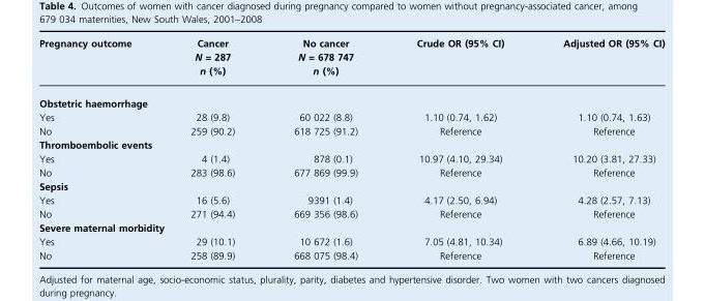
<table><thead><tr><td>Pregnancy outcome</td><td>Cancer N = 287 n (%)</td><td>No cancer N = 678 747 n (%)</td><td>Crude OR (95% CI)</td><td>Adjusted OR (95% CI)</td></tr></thead><tbody><tr><td colspan="5">Obstetric haemorrhage</td></tr><tr><td>Yes</td><td>28 (9.8)</td><td>60 022 (8.8)</td><td>1.10 (0.74, 1.62)</td><td>1.10 (0.74, 1.63)</td></tr><tr><td>No</td><td>259 (90.2)</td><td>618 725 (91.2)</td><td>Reference</td><td>Reference</td></tr><tr><td colspan="5">Thromboembolic events</td></tr><tr><td>Yes</td><td>4 (1.4)</td><td>878 (0.1)</td><td>10.97 (4.10, 29.34)</td><td>10.20 (3.81, 27.33)</td></tr><tr><td>No</td><td>283 (98.6)</td><td>677 869 (99.9)</td><td>Reference</td><td>Reference</td></tr><tr><td colspan="5">Sepsis</td></tr><tr><td>Yes</td><td>16 (5.6)</td><td>9391 (1.4)</td><td>4.17 (2.50, 6.94)</td><td>4.28 (2.57, 7.13)</td></tr><tr><td>No</td><td>271 (94.4)</td><td>669 356 (98.6)</td><td>Reference</td><td>Reference</td></tr><tr><td colspan="5">Severe maternal morbidity</td></tr><tr><td>Yes</td><td>29 (10.1)</td><td>10 672 (1.6)</td><td>7.05 (4.81, 10.34)</td><td>6.89 (4.66, 10.19)</td></tr><tr><td>No</td><td>258 (89.9)</td><td>668 075 (98.4)</td><td>Reference</td><td>Reference</td></tr></tbody></table>